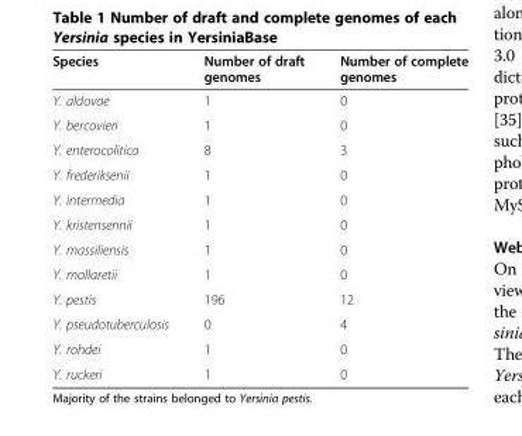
<table><thead><tr><td>Species</td><td>Number of draft genomes</td><td>Number of complete genomes</td></tr></thead><tbody><tr><td>Y. aldovae</td><td>1</td><td>0</td></tr><tr><td>Y. bercovieri</td><td>1</td><td>0</td></tr><tr><td>Y. enterocolitica</td><td>8</td><td>3</td></tr><tr><td>Y. frederiksenii</td><td>1</td><td>0</td></tr><tr><td>Y. intermedia</td><td>1</td><td>0</td></tr><tr><td>Y. kristensennii</td><td>1</td><td>0</td></tr><tr><td>Y. massiliensis</td><td>1</td><td>0</td></tr><tr><td>Y. mollaretii</td><td>1</td><td>0</td></tr><tr><td>Y. pestis</td><td>196</td><td>12</td></tr><tr><td>Y. pseudotuberculosis</td><td>0</td><td>4</td></tr><tr><td>Y. rohdei</td><td>1</td><td>0</td></tr><tr><td>Y. ruckeri</td><td>1</td><td>0</td></tr></tbody></table>